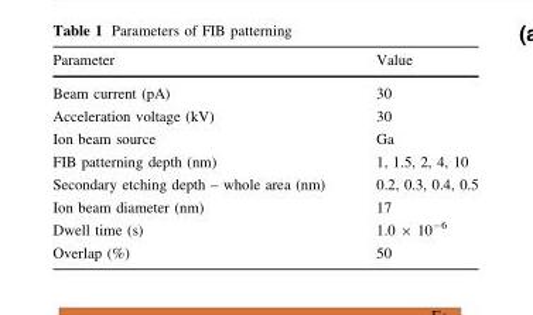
<table><thead><tr><td>Parameter</td><td>Value</td></tr></thead><tbody><tr><td>Beam current (pA)</td><td>30</td></tr><tr><td>Acceleration voltage (kV)</td><td>30</td></tr><tr><td>Ion beam source</td><td>Ga</td></tr><tr><td>FIB patterning depth (nm)</td><td>1, 1.5, 2, 4, 10</td></tr><tr><td>Secondary etching depth – whole area (nm)</td><td>0.2, 0.3, 0.4, 0.5</td></tr><tr><td>Ion beam diameter (nm)</td><td>17</td></tr><tr><td>Dwell time (s)</td><td>1.0 × 10<sup>-6</sup></td></tr><tr><td>Overlap (%)</td><td>50</td></tr></tbody></table>